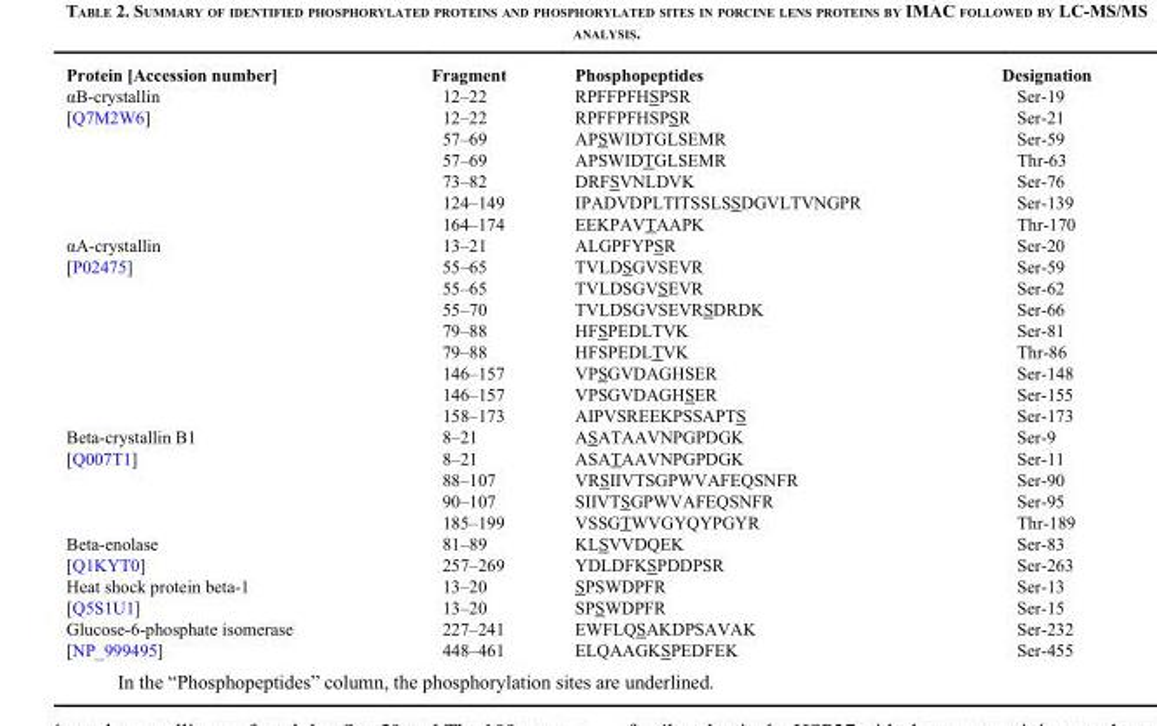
<table><thead><tr><td>Protein [Accession number]</td><td>Fragment</td><td>Phosphopeptides</td><td>Designation</td></tr></thead><tbody><tr><td>αB-crystallin</td><td>12–22</td><td>RPFFPFHSPSR</td><td>Ser-19</td></tr><tr><td rowspan="6">[Q7M2W6]</td><td>12–22</td><td>RPFFPFHSPSR</td><td>Ser-21</td></tr><tr><td>57–69</td><td>APSWIDTGLSEMR</td><td>Ser-59</td></tr><tr><td>57–69</td><td>APSWIDTGLSEMR</td><td>Thr-63</td></tr><tr><td>73–82</td><td>DRFSVNLDVK</td><td>Ser-76</td></tr><tr><td>124–149</td><td>IPADVDPLTITSSLSSDGVLTVNGPR</td><td>Ser-139</td></tr><tr><td>164–174</td><td>EEKPAVTAAPK</td><td>Thr-170</td></tr><tr><td>αA-crystallin</td><td>13–21</td><td>ALGPFYPSR</td><td>Ser-20</td></tr><tr><td rowspan="8">[P02475]</td><td>55–65</td><td>TVLDSGVSEVR</td><td>Ser-59</td></tr><tr><td>55–65</td><td>TVLDSGVSEVR</td><td>Ser-62</td></tr><tr><td>55–70</td><td>TVLDSGVSEVRSDRDK</td><td>Ser-66</td></tr><tr><td>79–88</td><td>HFSPEDLTVK</td><td>Ser-81</td></tr><tr><td>79–88</td><td>HFSPEDLTVK</td><td>Thr-86</td></tr><tr><td>146–157</td><td>VPSGVDAGHSER</td><td>Ser-148</td></tr><tr><td>146–157</td><td>VPSGVDAGHSER</td><td>Ser-155</td></tr><tr><td>158–173</td><td>AIPVSREEKPSSAPTS</td><td>Ser-173</td></tr><tr><td>Beta-crystallin B1</td><td>8–21</td><td>ASATAAVNPGPDGK</td><td>Ser-9</td></tr><tr><td rowspan="4">[Q007T1]</td><td>8–21</td><td>ASATAAVNPGPDGK</td><td>Ser-11</td></tr><tr><td>88–107</td><td>VRSIIVTSGPWVAFEQSNFR</td><td>Ser-90</td></tr><tr><td>90–107</td><td>SIIVTSGPWVAFEQSNFR</td><td>Ser-95</td></tr><tr><td>185–199</td><td>VSSGTWVGYQYPGYR</td><td>Thr-189</td></tr><tr><td>Beta-enolase</td><td>81–89</td><td>KLSVVDQEK</td><td>Ser-83</td></tr><tr><td>[Q1KYT0]</td><td>257–269</td><td>YDLDFKSPDDPSR</td><td>Ser-263</td></tr><tr><td>Heat shock protein beta-1</td><td>13–20</td><td>SPSWDPFR</td><td>Ser-13</td></tr><tr><td>[Q5S1U1]</td><td>13–20</td><td>SPSWDPFR</td><td>Ser-15</td></tr><tr><td>Glucose-6-phosphate isomerase</td><td>227–241</td><td>EWFLQSAKDPSAVAK</td><td>Ser-232</td></tr><tr><td>[NP_999495]</td><td>448–461</td><td>ELQAAGKSPEDFEK</td><td>Ser-455</td></tr></tbody></table>